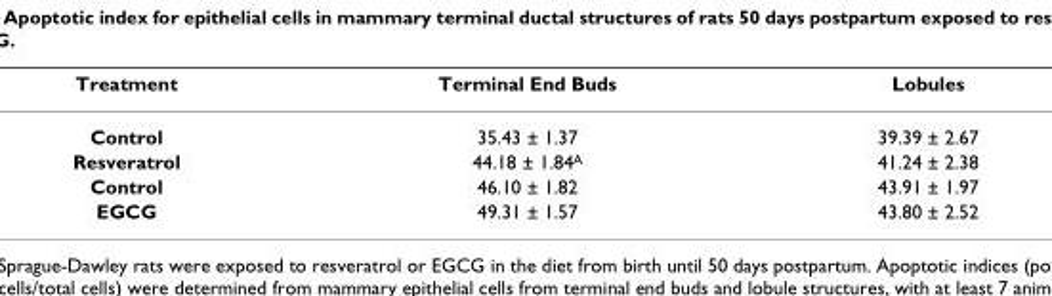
<table><thead><tr><td>Treatment</td><td>Terminal End Buds</td><td>Lobules</td></tr></thead><tbody><tr><td>Control</td><td>35.43 ± 1.37</td><td>39.39 ± 2.67</td></tr><tr><td>Resveratrol</td><td>44.18 ± 1.84<sup>A</sup></td><td>41.24 ± 2.38</td></tr><tr><td>Control</td><td>46.10 ± 1.82</td><td>43.91 ± 1.97</td></tr><tr><td>EGCG</td><td>49.31 ± 1.57</td><td>43.80 ± 2.52</td></tr></tbody></table>